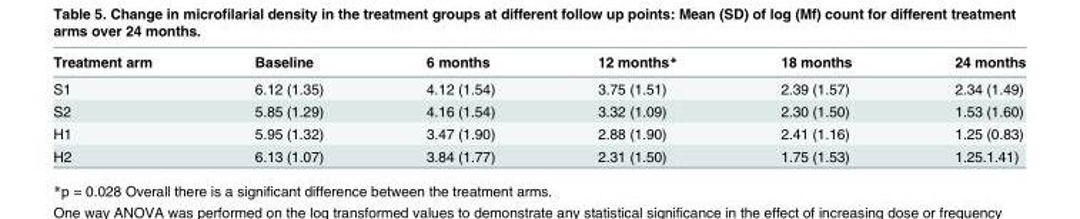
<table><thead><tr><td>Treatment arm</td><td>Baseline</td><td>6 months</td><td>12 months*</td><td>18 months</td><td>24 months</td></tr></thead><tbody><tr><td>S1</td><td>6.12 (1.35)</td><td>4.12 (1.54)</td><td>3.75 (1.51)</td><td>2.39 (1.57)</td><td>2.34 (1.49)</td></tr><tr><td>S2</td><td>5.85 (1.29)</td><td>4.16 (1.54)</td><td>3.32 (1.09)</td><td>2.30 (1.50)</td><td>1.53 (1.60)</td></tr><tr><td>H1</td><td>5.95 (1.32)</td><td>3.47 (1.90)</td><td>2.88 (1.90)</td><td>2.41 (1.16)</td><td>1.25 (0.83)</td></tr><tr><td>H2</td><td>6.13 (1.07)</td><td>3.84 (1.77)</td><td>2.31 (1.50)</td><td>1.75 (1.53)</td><td>1.25.1.41)</td></tr></tbody></table>